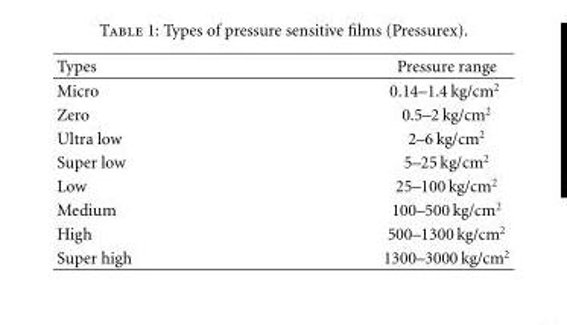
<table><thead><tr><td>Types</td><td>Pressure range</td></tr></thead><tbody><tr><td>Micro</td><td>0.14–1.4 kg/cm<sup>2</sup></td></tr><tr><td>Zero</td><td>0.5–2 kg/cm<sup>2</sup></td></tr><tr><td>Ultra low</td><td>2–6 kg/cm<sup>2</sup></td></tr><tr><td>Super low</td><td>5–25 kg/cm<sup>2</sup></td></tr><tr><td>Low</td><td>25–100 kg/cm<sup>2</sup></td></tr><tr><td>Medium</td><td>100–500 kg/cm<sup>2</sup></td></tr><tr><td>High</td><td>500–1300 kg/cm<sup>2</sup></td></tr><tr><td>Super high</td><td>1300–3000 kg/cm<sup>2</sup></td></tr></tbody></table>